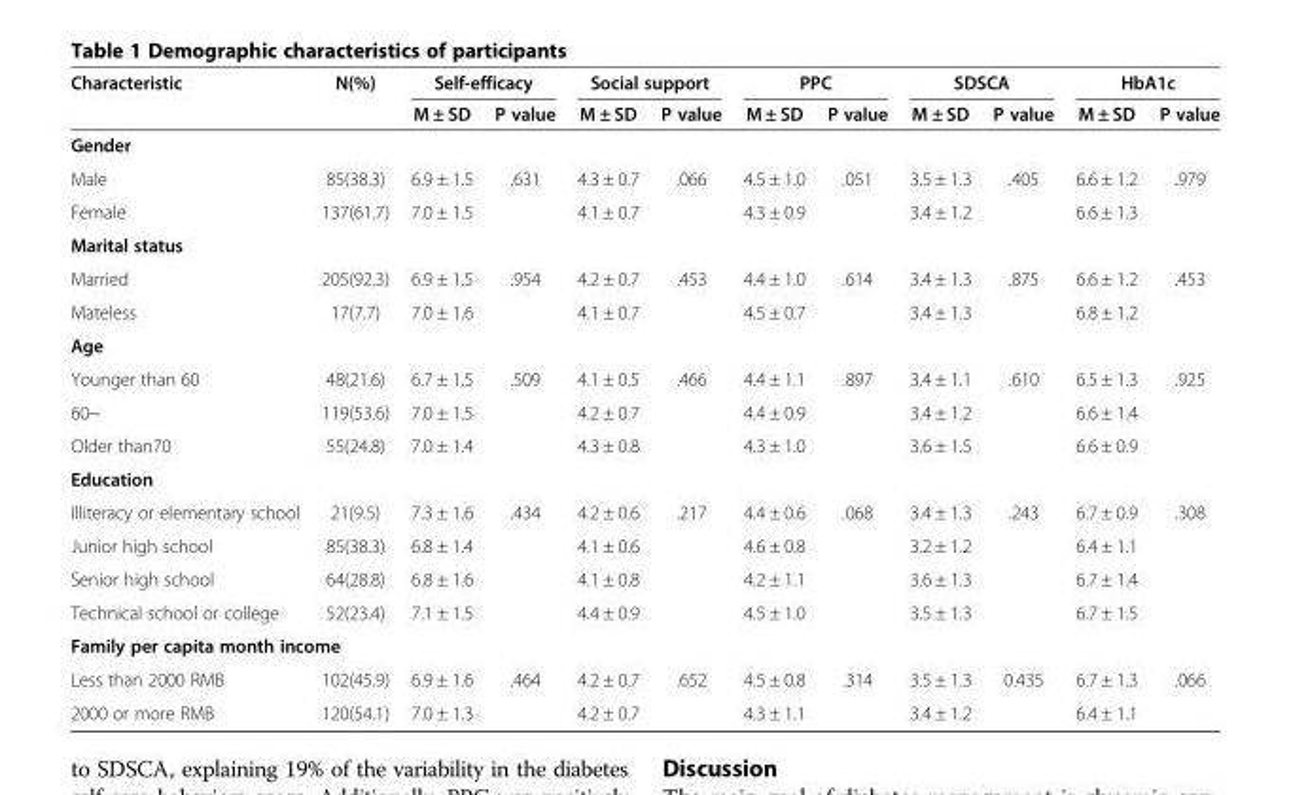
<table><thead><tr><td rowspan="2">Characteristic</td><td rowspan="2">N(%)</td><td colspan="2">Self-efficacy</td><td colspan="2">Social support</td><td colspan="2">PPC</td><td colspan="2">SDSCA</td><td colspan="2">HbA1c</td></tr><tr><td>M ± SD</td><td>P value</td><td>M ± SD</td><td>P value</td><td>M ± SD</td><td>P value</td><td>M ± SD</td><td>P value</td><td>M ± SD</td><td>P value</td></tr></thead><tbody><tr><td colspan="12">Gender</td></tr><tr><td>Male</td><td>85(38.3)</td><td>6.9 ± 1.5</td><td>.631</td><td>4.3 ± 0.7</td><td>.066</td><td>4.5 ± 1.0</td><td>.051</td><td>3.5 ± 1.3</td><td>.405</td><td>6.6 ± 1.2</td><td>.979</td></tr><tr><td>Female</td><td>137(61.7)</td><td>7.0 ± 1.5</td><td></td><td>4.1 ± 0.7</td><td></td><td>4.3 ± 0.9</td><td></td><td>3.4 ± 1.2</td><td></td><td>6.6 ± 1.3</td><td></td></tr><tr><td colspan="12">Marital status</td></tr><tr><td>Married</td><td>205(92.3)</td><td>6.9 ± 1.5</td><td>.954</td><td>4.2 ± 0.7</td><td>.453</td><td>4.4 ± 1.0</td><td>.614</td><td>3.4 ± 1.3</td><td>.875</td><td>6.6 ± 1.2</td><td>.453</td></tr><tr><td>Mateless</td><td>17(7.7)</td><td>7.0 ± 1.6</td><td></td><td>4.1 ± 0.7</td><td></td><td>4.5 ± 0.7</td><td></td><td>3.4 ± 1.3</td><td></td><td>6.8 ± 1.2</td><td></td></tr><tr><td colspan="12">Age</td></tr><tr><td>Younger than 60</td><td>48(21.6)</td><td>6.7 ± 1.5</td><td>.509</td><td>4.1 ± 0.5</td><td>.466</td><td>4.4 ± 1.1</td><td>.897</td><td>3.4 ± 1.1</td><td>.610</td><td>6.5 ± 1.3</td><td>.925</td></tr><tr><td>60~</td><td>119(53.6)</td><td>7.0 ± 1.5</td><td></td><td>4.2 ± 0.7</td><td></td><td>4.4 ± 0.9</td><td></td><td>3.4 ± 1.2</td><td></td><td>6.6 ± 1.4</td><td></td></tr><tr><td>Older than70</td><td>55(24.8)</td><td>7.0 ± 1.4</td><td></td><td>4.3 ± 0.8</td><td></td><td>4.3 ± 1.0</td><td></td><td>3.6 ± 1.5</td><td></td><td>6.6 ± 0.9</td><td></td></tr><tr><td colspan="12">Education</td></tr><tr><td>Illiteracy or elementary school</td><td>21(9.5)</td><td>7.3 ± 1.6</td><td>.434</td><td>4.2 ± 0.6</td><td>.217</td><td>4.4 ± 0.6</td><td>.068</td><td>3.4 ± 1.3</td><td>.243</td><td>6.7 ± 0.9</td><td>.308</td></tr><tr><td>Junior high school</td><td>85(38.3)</td><td>6.8 ± 1.4</td><td></td><td>4.1 ± 0.6</td><td></td><td>4.6 ± 0.8</td><td></td><td>3.2 ± 1.2</td><td></td><td>6.4 ± 1.1</td><td></td></tr><tr><td>Senior high school</td><td>64(28.8)</td><td>6.8 ± 1.6</td><td></td><td>4.1 ± 0.8</td><td></td><td>4.2 ± 1.1</td><td></td><td>3.6 ± 1.3</td><td></td><td>6.7 ± 1.4</td><td></td></tr><tr><td>Technical school or college</td><td>52(23.4)</td><td>7.1 ± 1.5</td><td></td><td>4.4 ± 0.9</td><td></td><td>4.5 ± 1.0</td><td></td><td>3.5 ± 1.3</td><td></td><td>6.7 ± 1.5</td><td></td></tr><tr><td colspan="12">Family per capita month income</td></tr><tr><td>Less than 2000 RMB</td><td>102(45.9)</td><td>6.9 ± 1.6</td><td>.464</td><td>4.2 ± 0.7</td><td>.652</td><td>4.5 ± 0.8</td><td>.314</td><td>3.5 ± 1.3</td><td>0.435</td><td>6.7 ± 1.3</td><td>.066</td></tr><tr><td>2000 or more RMB</td><td>120(54.1)</td><td>7.0 ± 1.3</td><td></td><td>4.2 ± 0.7</td><td></td><td>4.3 ± 1.1</td><td></td><td>3.4 ± 1.2</td><td></td><td>6.4 ± 1.1</td><td></td></tr></tbody></table>